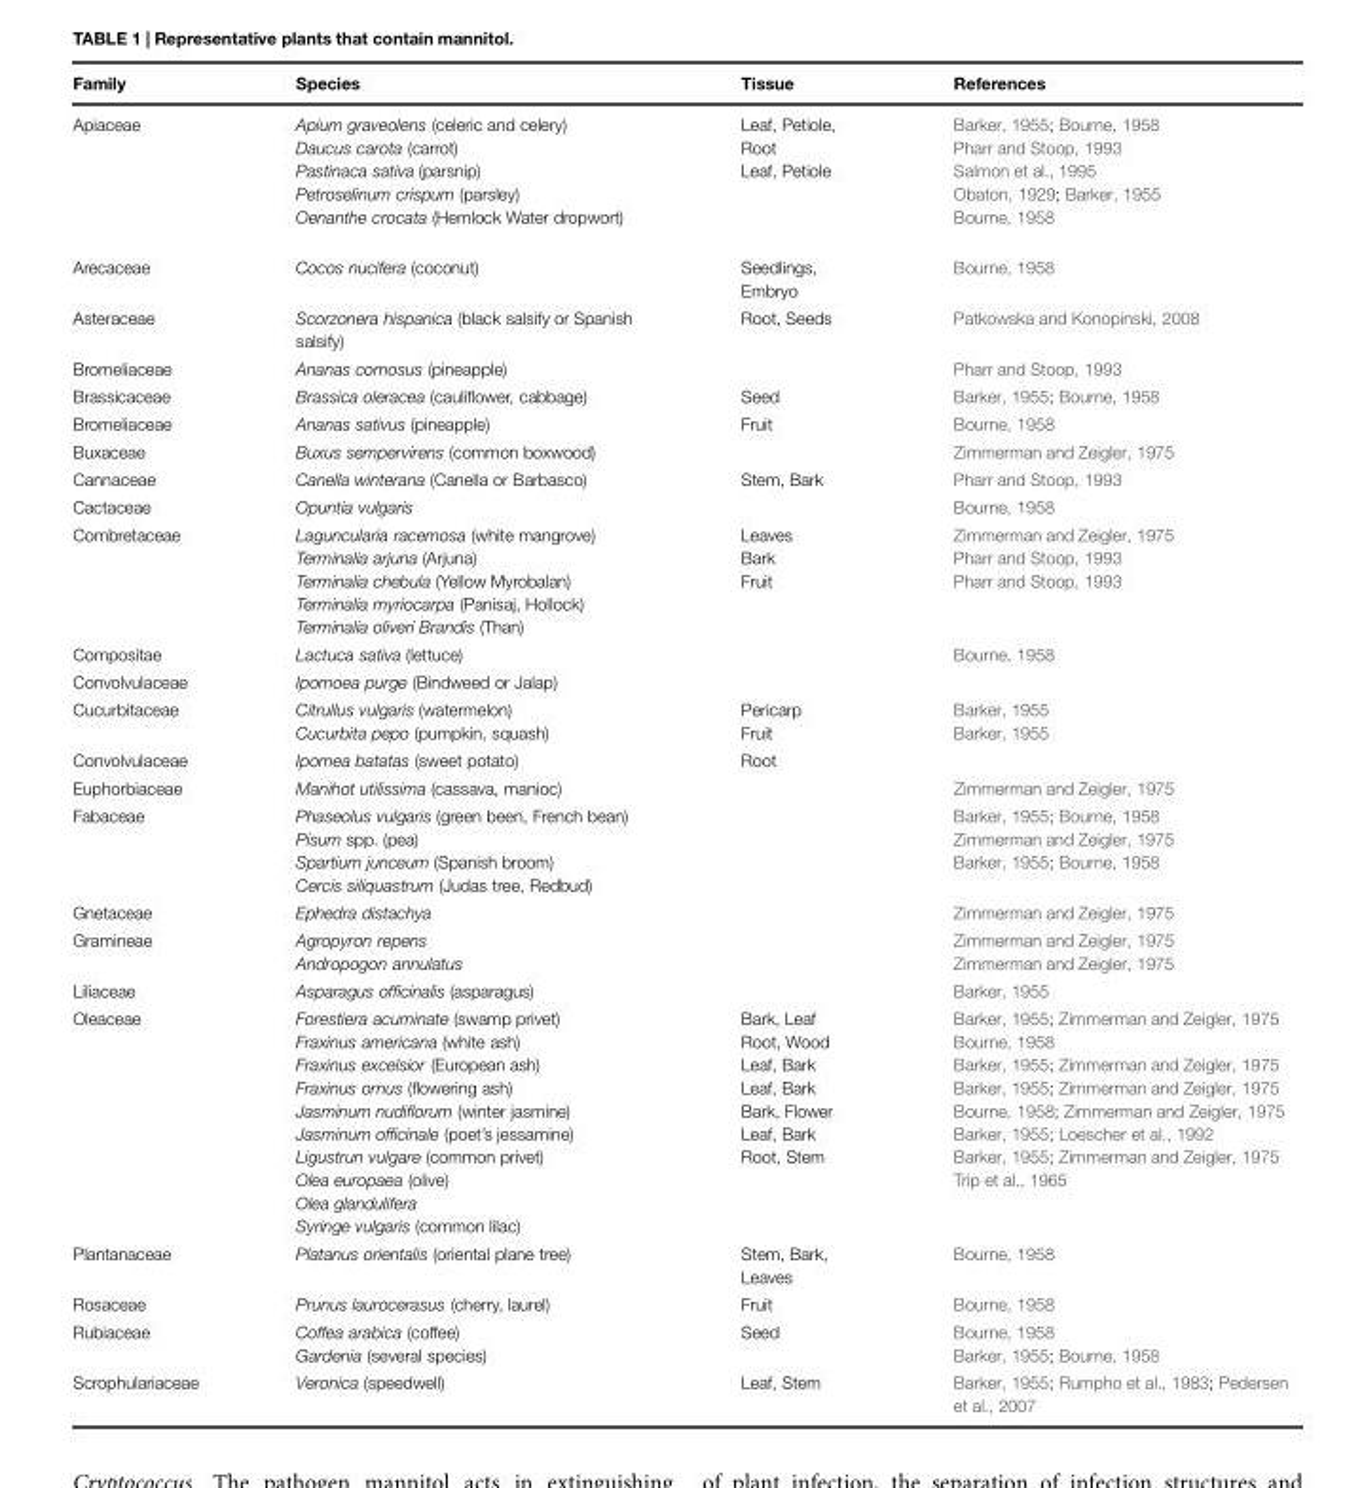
<table><thead><tr><td>Family</td><td>Species</td><td>Tissue</td><td>References</td></tr></thead><tbody><tr><td>Apiaceae</td><td>Apium graveolens (celeric and celery) Daucus carota (carrot) Pastinaca sativa (parsnip) Petroselinum crispum (parsley) Oenanthe crocata (Hemlock Water dropwort)</td><td>Leaf, Petiole, Root Leaf, Petiole</td><td>Barker, 1955; Bourne, 1958 Pharr and Stoop, 1993 Salmon et al., 1995 Obaton, 1929; Barker, 1955 Bourne, 1958</td></tr><tr><td>Arecaceae</td><td>Cocos nucifera (coconut)</td><td>Seedlings, Embryo</td><td>Bourne, 1958</td></tr><tr><td>Asteraceae</td><td>Scorzonera hispanica (black salsify or Spanish salsify)</td><td>Root, Seeds</td><td>Patkowska and Konopinski, 2008</td></tr><tr><td>Bromeliaceae</td><td>Ananas comosus (pineapple)</td><td></td><td>Pharr and Stoop, 1993</td></tr><tr><td>Brassicaceae</td><td>Brassica oleracea (cauliflower, cabbage)</td><td>Seed</td><td>Barker, 1955; Bourne, 1958</td></tr><tr><td>Bromeliaceae</td><td>Ananas sativus (pineapple)</td><td>Fruit</td><td>Bourne, 1958</td></tr><tr><td>Buxaceae</td><td>Buxus sempervirens (common boxwood)</td><td></td><td>Zimmerman and Zeigler, 1975</td></tr><tr><td>Cannaceae</td><td>Canella winterana (Canella or Barbasco)</td><td>Stem, Bark</td><td>Pharr and Stoop, 1993</td></tr><tr><td>Cactaceae</td><td>Opuntia vulgaris</td><td></td><td>Bourne, 1958</td></tr><tr><td>Combretaceae</td><td>Laguncularia racemosa (white mangrove) Terminalia arjuna (Arjuna) Terminalia chebula (Yellow Myrobalan) Terminalia myriocarpa (Panisaj, Hollock) Terminalia oliveri Brandis (Than)</td><td>Leaves Bark Fruit</td><td>Zimmerman and Zeigler, 1975 Pharr and Stoop, 1993 Pharr and Stoop, 1993</td></tr><tr><td>Compositae</td><td>Lactuca sativa (lettuce)</td><td></td><td>Bourne, 1958</td></tr><tr><td>Convolvulaceae</td><td>Ipomoea purge (Bindweed or Jalap)</td><td></td><td></td></tr><tr><td>Cucurbitaceae</td><td>Citrullus vulgaris (watermelon) Cucurbita pepo (pumpkin, squash)</td><td>Pericarp Fruit</td><td>Barker, 1955 Barker, 1955</td></tr><tr><td>Convolvulaceae</td><td>Ipomea batatas (sweet potato)</td><td>Root</td><td></td></tr><tr><td>Euphorbiaceae</td><td>Manihot utilissima (cassava, manioc)</td><td></td><td>Zimmerman and Zeigler, 1975</td></tr><tr><td>Fabaceae</td><td>Phaseolus vulgaris (green been, French bean) Pisum spp. (pea) Spartium junceum (Spanish broom) Cercis siliquastrum (Judas tree, Redbud)</td><td></td><td>Barker, 1955; Bourne, 1958 Zimmerman and Zeigler, 1975 Barker, 1955; Bourne, 1958</td></tr><tr><td>Gnetaceae</td><td>Ephedra distachya</td><td></td><td>Zimmerman and Zeigler, 1975</td></tr><tr><td>Gramineae</td><td>Agropyron repens Andropogon annulatus</td><td></td><td>Zimmerman and Zeigler, 1975 Zimmerman and Zeigler, 1975</td></tr><tr><td>Liliaceae</td><td>Asparagus officinalis (asparagus)</td><td></td><td>Barker, 1955</td></tr><tr><td>Oleaceae</td><td>Forestiera acuminate (swamp privet) Fraxinus americana (white ash) Fraxinus excelsior (European ash) Fraxinus ornus (flowering ash) Jasminum nudiflorum (winter jasmine) Jasminum officinale (poet’s jessamine) Ligustrun vulgare (common privet) Olea europaea (olive) Olea glandulifera Syringe vulgaris (common lilac)</td><td>Bark, Leaf Root, Wood Leaf, Bark Leaf, Bark Bark, Flower Leaf, Bark Root, Stem</td><td>Barker, 1955; Zimmerman and Zeigler, 1975 Bourne, 1958 Barker, 1955; Zimmerman and Zeigler, 1975 Barker, 1955; Zimmerman and Zeigler, 1975 Bourne, 1958; Zimmerman and Zeigler, 1975 Barker, 1955; Loescher et al., 1992 Barker, 1955; Zimmerman and Zeigler, 1975 Trip et al., 1965</td></tr><tr><td>Plantanaceae</td><td>Platanus orientalis (oriental plane tree)</td><td>Stem, Bark, Leaves</td><td>Bourne, 1958</td></tr><tr><td>Rosaceae</td><td>Prunus laurocerasus (cherry, laurel)</td><td>Fruit</td><td>Bourne, 1958</td></tr><tr><td>Rubiaceae</td><td>Coffea arabica (coffee) Gardenia (several species)</td><td>Seed</td><td>Bourne, 1958 Barker, 1955; Bourne, 1958</td></tr><tr><td>Scrophulariaceae</td><td>Veronica (speedwell)</td><td>Leaf, Stem</td><td>Barker, 1955; Rumpho et al., 1983; Pedersen et al., 2007</td></tr></tbody></table>